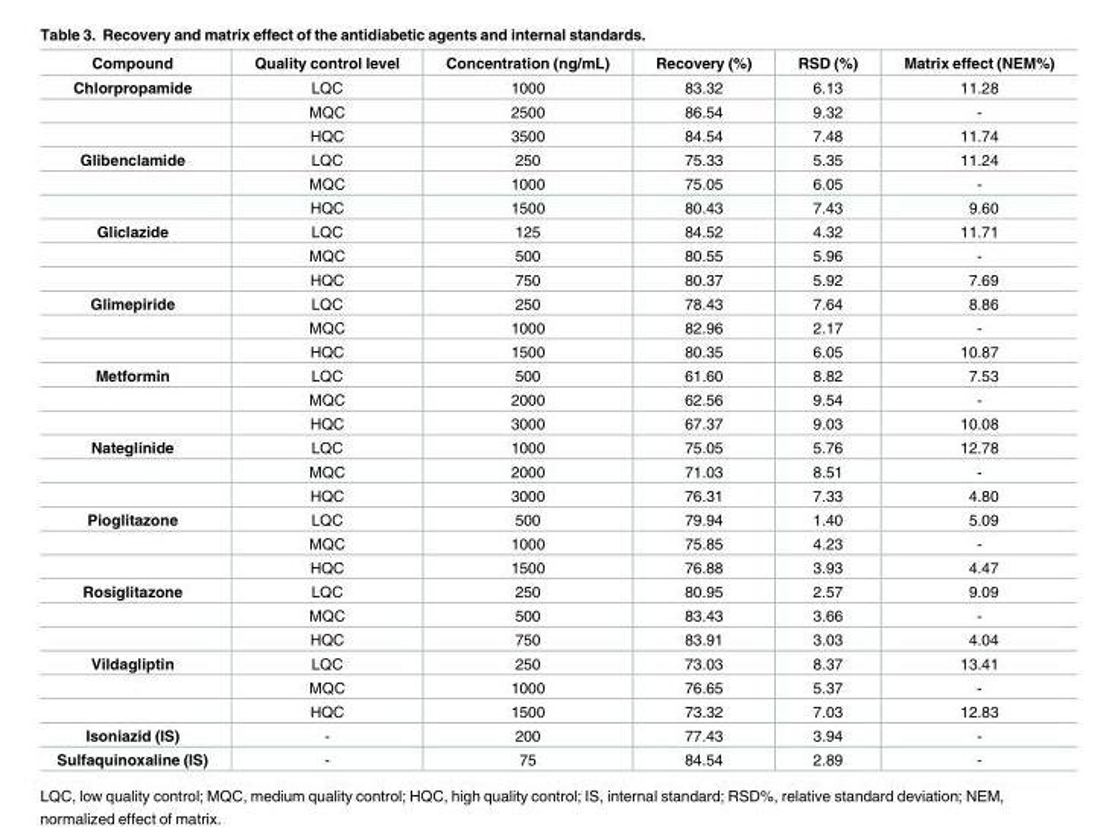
<table><thead><tr><td>Compound</td><td>Quality control level</td><td>Concentration (ng/mL)</td><td>Recovery (%)</td><td>RSD (%)</td><td>Matrix effect (NEM%)</td></tr></thead><tbody><tr><td rowspan="3">Chlorpropamide</td><td>LQC</td><td>1000</td><td>83.32</td><td>6.13</td><td>11.28</td></tr><tr><td>MQC</td><td>2500</td><td>86.54</td><td>9.32</td><td>-</td></tr><tr><td>HQC</td><td>3500</td><td>84.54</td><td>7.48</td><td>11.74</td></tr><tr><td rowspan="3">Glibenclamide</td><td>LQC</td><td>250</td><td>75.33</td><td>5.35</td><td>11.24</td></tr><tr><td>MQC</td><td>1000</td><td>75.05</td><td>6.05</td><td>-</td></tr><tr><td>HQC</td><td>1500</td><td>80.43</td><td>7.43</td><td>9.60</td></tr><tr><td rowspan="3">Gliclazide</td><td>LQC</td><td>125</td><td>84.52</td><td>4.32</td><td>11.71</td></tr><tr><td>MQC</td><td>500</td><td>80.55</td><td>5.96</td><td>-</td></tr><tr><td>HQC</td><td>750</td><td>80.37</td><td>5.92</td><td>7.69</td></tr><tr><td rowspan="3">Glimepiride</td><td>LQC</td><td>250</td><td>78.43</td><td>7.64</td><td>8.86</td></tr><tr><td>MQC</td><td>1000</td><td>82.96</td><td>2.17</td><td>-</td></tr><tr><td>HQC</td><td>1500</td><td>80.35</td><td>6.05</td><td>10.87</td></tr><tr><td rowspan="3">Metformin</td><td>LQC</td><td>500</td><td>61.60</td><td>8.82</td><td>7.53</td></tr><tr><td>MQC</td><td>2000</td><td>62.56</td><td>9.54</td><td>-</td></tr><tr><td>HQC</td><td>3000</td><td>67.37</td><td>9.03</td><td>10.08</td></tr><tr><td rowspan="3">Nateglinide</td><td>LQC</td><td>1000</td><td>75.05</td><td>5.76</td><td>12.78</td></tr><tr><td>MQC</td><td>2000</td><td>71.03</td><td>8.51</td><td>-</td></tr><tr><td>HQC</td><td>3000</td><td>76.31</td><td>7.33</td><td>4.80</td></tr><tr><td rowspan="3">Pioglitazone</td><td>LQC</td><td>500</td><td>79.94</td><td>1.40</td><td>5.09</td></tr><tr><td>MQC</td><td>1000</td><td>75.85</td><td>4.23</td><td>-</td></tr><tr><td>HQC</td><td>1500</td><td>76.88</td><td>3.93</td><td>4.47</td></tr><tr><td rowspan="3">Rosiglitazone</td><td>LQC</td><td>250</td><td>80.95</td><td>2.57</td><td>9.09</td></tr><tr><td>MQC</td><td>500</td><td>83.43</td><td>3.66</td><td>-</td></tr><tr><td>HQC</td><td>750</td><td>83.91</td><td>3.03</td><td>4.04</td></tr><tr><td rowspan="3">Vildagliptin</td><td>LQC</td><td>250</td><td>73.03</td><td>8.37</td><td>13.41</td></tr><tr><td>MQC</td><td>1000</td><td>76.65</td><td>5.37</td><td>-</td></tr><tr><td>HQC</td><td>1500</td><td>73.32</td><td>7.03</td><td>12.83</td></tr><tr><td>Isoniazid (IS)</td><td>-</td><td>200</td><td>77.43</td><td>3.94</td><td>-</td></tr><tr><td>Sulfaquinoxaline (IS)</td><td>-</td><td>75</td><td>84.54</td><td>2.89</td><td>-</td></tr></tbody></table>